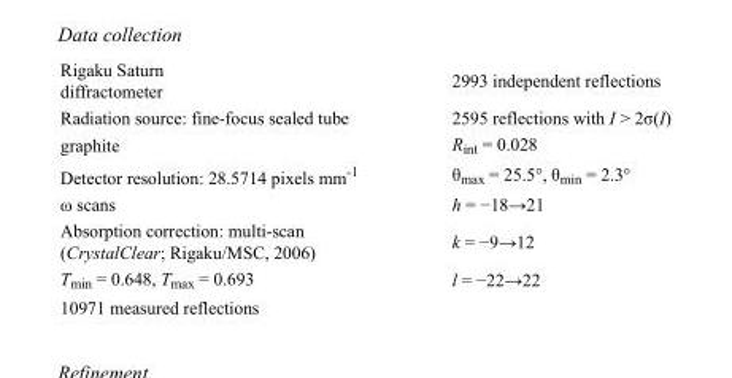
<table><tbody><tr><td>Rigaku Saturn diffractometer</td><td>2993 independent reflections</td></tr><tr><td>Radiation source: fine-focus sealed tube</td><td>2595 reflections with I &gt; 2σ(I)</td></tr><tr><td>graphite</td><td>R<sub>int</sub> = 0.028</td></tr><tr><td>Detector resolution: 28.5714 pixels mm<sup>-1</sup></td><td>θ<sub>max</sub> = 25.5°, θ<sub>min</sub> = 2.3°</td></tr><tr><td>ω scans</td><td>h = −18→21</td></tr><tr><td>Absorption correction: multi-scan (CrystalClear; Rigaku/MSC, 2006)</td><td>k = −9→12</td></tr><tr><td>T<sub>min</sub> = 0.648, T<sub>max</sub> = 0.693</td><td>l = −22→22</td></tr><tr><td>10971 measured reflections</td><td></td></tr></tbody></table>